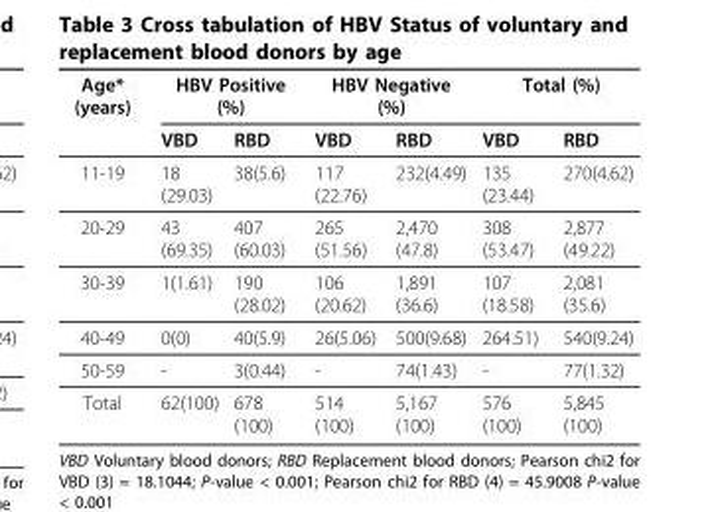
<table><thead><tr><td rowspan="2">Age* (years)</td><td colspan="2">HBV Positive (%)</td><td colspan="2">HBV Negative (%)</td><td colspan="2">Total (%)</td></tr><tr><td>VBD</td><td>RBD</td><td>VBD</td><td>RBD</td><td>VBD</td><td>RBD</td></tr></thead><tbody><tr><td>11-19</td><td>18 (29.03)</td><td>38(5.6)</td><td>117 (22.76)</td><td>232(4.49)</td><td>135 (23.44)</td><td>270(4.62)</td></tr><tr><td>20-29</td><td>43 (69.35)</td><td>407 (60.03)</td><td>265 (51.56)</td><td>2,470 (47.8)</td><td>308 (53.47)</td><td>2,877 (49.22)</td></tr><tr><td>30-39</td><td>1(1.61)</td><td>190 (28.02)</td><td>106 (20.62)</td><td>1,891 (36.6)</td><td>107 (18.58)</td><td>2,081 (35.6)</td></tr><tr><td>40-49</td><td>0(0)</td><td>40(5.9)</td><td>26(5.06)</td><td>500(9.68)</td><td>264.51)</td><td>540(9.24)</td></tr><tr><td>50-59</td><td>-</td><td>3(0.44)</td><td>-</td><td>74(1.43)</td><td>-</td><td>77(1.32)</td></tr><tr><td>Total</td><td>62(100)</td><td>678 (100)</td><td>514 (100)</td><td>5,167 (100)</td><td>576 (100)</td><td>5,845 (100)</td></tr></tbody></table>